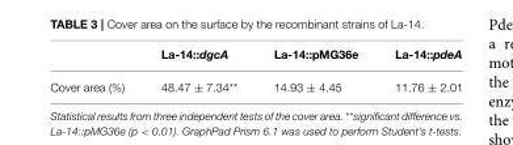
<table><thead><tr><td></td><td>La-14::dgcA</td><td>La-14::pMG36e</td><td>La-14::pdeA</td></tr></thead><tbody><tr><td>Cover area (%)</td><td>48.47 ± 7.34**</td><td>14.93 ± 4.45</td><td>11.76 ± 2.01</td></tr></tbody></table>